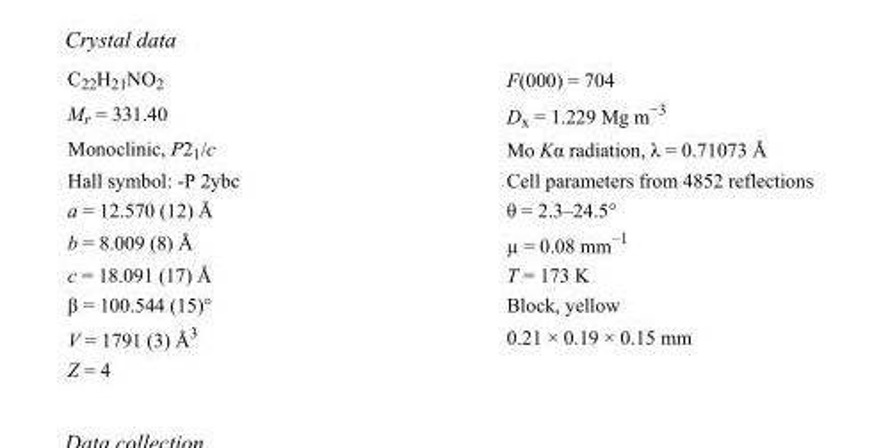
<table><tbody><tr><td>C<sub>22</sub>H<sub>21</sub>NO<sub>2</sub></td><td>F(000) = 704</td></tr><tr><td>M<sub>r</sub> = 331.40</td><td>D<sub>x</sub> = 1.229 Mg m<sup>−3</sup></td></tr><tr><td>Monoclinic, P2<sub>1</sub>/c</td><td>Mo Kα radiation, λ = 0.71073 Å</td></tr><tr><td>Hall symbol: -P 2ybc</td><td>Cell parameters from 4852 reflections</td></tr><tr><td>a = 12.570 (12) Å</td><td>θ = 2.3–24.5°</td></tr><tr><td>b = 8.009 (8) Å</td><td>µ = 0.08 mm<sup>−1</sup></td></tr><tr><td>c = 18.091 (17) Å</td><td>T = 173 K</td></tr><tr><td>β = 100.544 (15)°</td><td>Block, yellow</td></tr><tr><td>V = 1791 (3) Å<sup>3</sup></td><td>0.21 × 0.19 × 0.15 mm</td></tr><tr><td>Z = 4</td><td></td></tr></tbody></table>